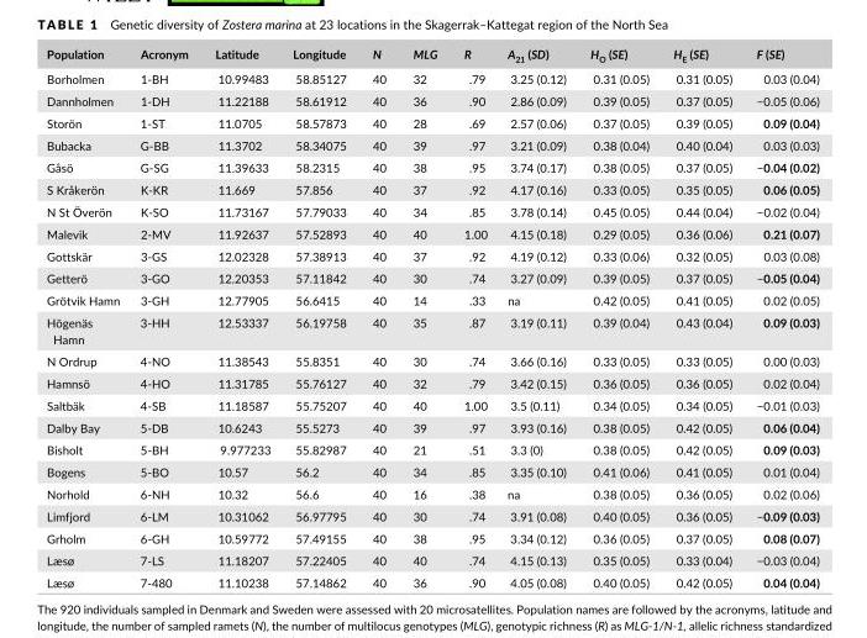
<table><thead><tr><td>Population</td><td>Acronym</td><td>Latitude</td><td>Longitude</td><td>N</td><td>MLG</td><td>R</td><td>A<sub>21</sub> (SD)</td><td>H<sub>O</sub> (SE)</td><td>H<sub>E</sub> (SE)</td><td>F (SE)</td></tr></thead><tbody><tr><td>Borholmen</td><td>1- BH</td><td>10.99483</td><td>58.85127</td><td>40</td><td>32</td><td>.79</td><td>3.25 (0.12)</td><td>0.31 (0.05)</td><td>0.31 (0.05)</td><td>0.03 (0.04)</td></tr><tr><td>Dannholmen</td><td>1- DH</td><td>11.22188</td><td>58.61912</td><td>40</td><td>36</td><td>.90</td><td>2.86 (0.09)</td><td>0.39 (0.05)</td><td>0.37 (0.05)</td><td>−0.05 (0.06)</td></tr><tr><td>Storön</td><td>1- ST</td><td>11.0705</td><td>58.57873</td><td>40</td><td>28</td><td>.69</td><td>2.57 (0.06)</td><td>0.37 (0.05)</td><td>0.39 (0.05)</td><td>0.09 (0.04)</td></tr><tr><td>Bubacka</td><td>G- BB</td><td>11.3702</td><td>58.34075</td><td>40</td><td>39</td><td>.97</td><td>3.21 (0.09)</td><td>0.38 (0.04)</td><td>0.40 (0.04)</td><td>0.03 (0.03)</td></tr><tr><td>Gåsö</td><td>G- SG</td><td>11.39633</td><td>58.2315</td><td>40</td><td>38</td><td>.95</td><td>3.74 (0.17)</td><td>0.38 (0.05)</td><td>0.37 (0.05)</td><td>−0.04 (0.02)</td></tr><tr><td>S Kråkerön</td><td>K- KR</td><td>11.669</td><td>57.856</td><td>40</td><td>37</td><td>.92</td><td>4.17 (0.16)</td><td>0.33 (0.05)</td><td>0.35 (0.05)</td><td>0.06 (0.05)</td></tr><tr><td>N St Överön</td><td>K- SO</td><td>11.73167</td><td>57.79033</td><td>40</td><td>34</td><td>.85</td><td>3.78 (0.14)</td><td>0.45 (0.05)</td><td>0.44 (0.04)</td><td>−0.02 (0.04)</td></tr><tr><td>Malevik</td><td>2- MV</td><td>11.92637</td><td>57.52893</td><td>40</td><td>40</td><td>1.00</td><td>4.15 (0.18)</td><td>0.29 (0.05)</td><td>0.36 (0.06)</td><td>0.21 (0.07)</td></tr><tr><td>Gottskär</td><td>3- GS</td><td>12.02328</td><td>57.38913</td><td>40</td><td>37</td><td>.92</td><td>4.19 (0.12)</td><td>0.33 (0.06)</td><td>0.32 (0.05)</td><td>0.03 (0.08)</td></tr><tr><td>Getterö</td><td>3- GO</td><td>12.20353</td><td>57.11842</td><td>40</td><td>30</td><td>.74</td><td>3.27 (0.09)</td><td>0.39 (0.05)</td><td>0.37 (0.05)</td><td>−0.05 (0.04)</td></tr><tr><td>Grötvik Hamn</td><td>3- GH</td><td>12.77905</td><td>56.6415</td><td>40</td><td>14</td><td>.33</td><td>na</td><td>0.42 (0.05)</td><td>0.41 (0.05)</td><td>0.02 (0.05)</td></tr><tr><td>Högenäs Hamn</td><td>3- HH</td><td>12.53337</td><td>56.19758</td><td>40</td><td>35</td><td>.87</td><td>3.19 (0.11)</td><td>0.39 (0.04)</td><td>0.43 (0.04)</td><td>0.09 (0.03)</td></tr><tr><td>N Ordrup</td><td>4- NO</td><td>11.38543</td><td>55.8351</td><td>40</td><td>30</td><td>.74</td><td>3.66 (0.16)</td><td>0.33 (0.05)</td><td>0.33 (0.05)</td><td>0.00 (0.03)</td></tr><tr><td>Hamnsö</td><td>4- HO</td><td>11.31785</td><td>55.76127</td><td>40</td><td>32</td><td>.79</td><td>3.42 (0.15)</td><td>0.36 (0.05)</td><td>0.36 (0.05)</td><td>0.02 (0.04)</td></tr><tr><td>Saltbäk</td><td>4- SB</td><td>11.18587</td><td>55.75207</td><td>40</td><td>40</td><td>1.00</td><td>3.5 (0.11)</td><td>0.34 (0.05)</td><td>0.34 (0.05)</td><td>−0.01 (0.03)</td></tr><tr><td>Dalby Bay</td><td>5- DB</td><td>10.6243</td><td>55.5273</td><td>40</td><td>39</td><td>.97</td><td>3.93 (0.16)</td><td>0.38 (0.05)</td><td>0.42 (0.05)</td><td>0.06 (0.04)</td></tr><tr><td>Bisholt</td><td>5- BH</td><td>9.977233</td><td>55.82987</td><td>40</td><td>21</td><td>.51</td><td>3.3 (0)</td><td>0.38 (0.05)</td><td>0.42 (0.05)</td><td>0.09 (0.03)</td></tr><tr><td>Bogens</td><td>5- BO</td><td>10.57</td><td>56.2</td><td>40</td><td>34</td><td>.85</td><td>3.35 (0.10)</td><td>0.41 (0.06)</td><td>0.41 (0.05)</td><td>0.01 (0.04)</td></tr><tr><td>Norhold</td><td>6- NH</td><td>10.32</td><td>56.6</td><td>40</td><td>16</td><td>.38</td><td>na</td><td>0.38 (0.05)</td><td>0.36 (0.05)</td><td>0.02 (0.06)</td></tr><tr><td>Limfjord</td><td>6- LM</td><td>10.31062</td><td>56.97795</td><td>40</td><td>30</td><td>.74</td><td>3.91 (0.08)</td><td>0.40 (0.05)</td><td>0.36 (0.05)</td><td>−0.09 (0.03)</td></tr><tr><td>Grholm</td><td>6- GH</td><td>10.59772</td><td>57.49155</td><td>40</td><td>38</td><td>.95</td><td>3.34 (0.12)</td><td>0.36 (0.05)</td><td>0.37 (0.05)</td><td>0.08 (0.07)</td></tr><tr><td>Læsø</td><td>7- LS</td><td>11.18207</td><td>57.22405</td><td>40</td><td>40</td><td>.74</td><td>4.15 (0.13)</td><td>0.35 (0.05)</td><td>0.33 (0.04)</td><td>−0.03 (0.04)</td></tr><tr><td>Læsø</td><td>7- 480</td><td>11.10238</td><td>57.14862</td><td>40</td><td>36</td><td>.90</td><td>4.05 (0.08)</td><td>0.40 (0.05)</td><td>0.42 (0.05)</td><td>0.04 (0.04)</td></tr></tbody></table>